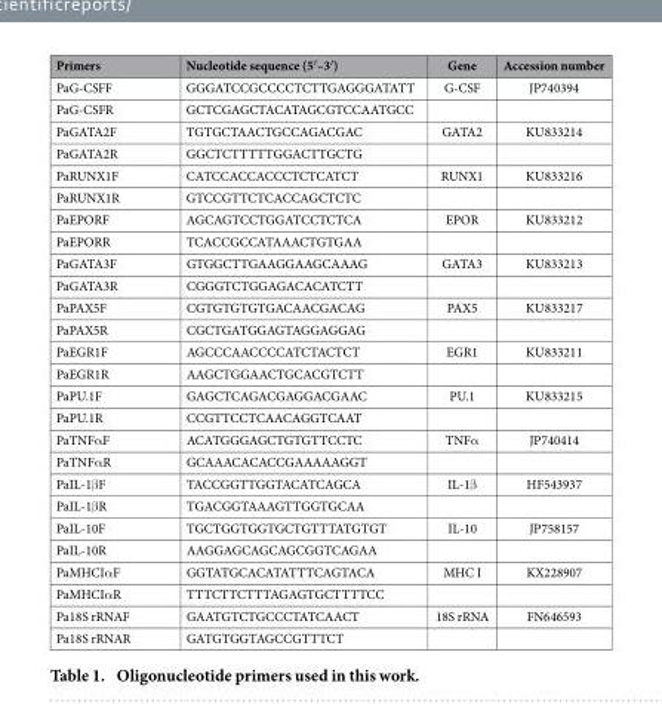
<table><thead><tr><td>Primers</td><td>Nucleotide sequence (5′ –3′ )</td><td>Gene</td><td>Accession number</td></tr></thead><tbody><tr><td>PaG-CSFF</td><td>GGGATCCGCCCCTCTTGAGGGATATT</td><td>G-CSF</td><td>JP740394</td></tr><tr><td>PaG-CSFR</td><td>GCTCGAGCTACATAGCGTCCAATGCC</td><td></td><td></td></tr><tr><td>PaGATA2F</td><td>TGTGCTAACTGCCAGACGAC</td><td>GATA2</td><td>KU833214</td></tr><tr><td>PaGATA2R</td><td>GGCTCTTTTTGGACTTGCTG</td><td></td><td></td></tr><tr><td>PaRUNX1F</td><td>CATCCACCACCCTCTCATCT</td><td>RUNX1</td><td>KU833216</td></tr><tr><td>PaRUNX1R</td><td>GTCCGTTCTCACCAGCTCTC</td><td></td><td></td></tr><tr><td>PaEPORF</td><td>AGCAGTCCTGGATCCTCTCA</td><td>EPOR</td><td>KU833212</td></tr><tr><td>PaEPORR</td><td>TCACCGCCATAAACTGTGAA</td><td></td><td></td></tr><tr><td>PaGATA3F</td><td>GTGGCTTGAAGGAAGCAAAG</td><td>GATA3</td><td>KU833213</td></tr><tr><td>PaGATA3R</td><td>CGGGTCTGGAGACACATCTT</td><td></td><td></td></tr><tr><td>PaPAX5F</td><td>CGTGTGTGTGACAACGACAG</td><td>PAX5</td><td>KU833217</td></tr><tr><td>PaPAX5R</td><td>CGCTGATGGAGTAGGAGGAG</td><td></td><td></td></tr><tr><td>PaEGR1F</td><td>AGCCCAACCCCATCTACTCT</td><td>EGR1</td><td>KU833211</td></tr><tr><td>PaEGR1R</td><td>AAGCTGGAACTGCACGTCTT</td><td></td><td></td></tr><tr><td>PaPU.1F</td><td>GAGCTCAGACGAGGACGAAC</td><td>PU.1</td><td>KU833215</td></tr><tr><td>PaPU.1R</td><td>CCGTTCCTCAACAGGTCAAT</td><td></td><td></td></tr><tr><td>PaTNFα F</td><td>ACATGGGAGCTGTGTTCCTC</td><td>TNFα</td><td>JP740414</td></tr><tr><td>PaTNFα R</td><td>GCAAACACACCGAAAAAGGT</td><td></td><td></td></tr><tr><td>PaIL-1β F</td><td>TACCGGTTGGTACATCAGCA</td><td>IL-1β</td><td>HF543937</td></tr><tr><td>PaIL-1β R</td><td>TGACGGTAAAGTTGGTGCAA</td><td></td><td></td></tr><tr><td>PaIL-10F</td><td>TGCTGGTGGTGCTGTTTATGTGT</td><td>IL-10</td><td>JP758157</td></tr><tr><td>PaIL-10R</td><td>AAGGAGCAGCAGCGGTCAGAA</td><td></td><td></td></tr><tr><td>PaMHCIα F</td><td>GGTATGCACATATTTCAGTACA</td><td>MHC I</td><td>KX228907</td></tr><tr><td>PaMHCIα R</td><td>TTTCTTCTTTAGAGTGCTTTTCC</td><td></td><td></td></tr><tr><td>Pa18S rRNAF</td><td>GAATGTCTGCCCTATCAACT</td><td>18S rRNA</td><td>FN646593</td></tr><tr><td>Pa18S rRNAR</td><td>GATGTGGTAGCCGTTTCT</td><td></td><td></td></tr></tbody></table>